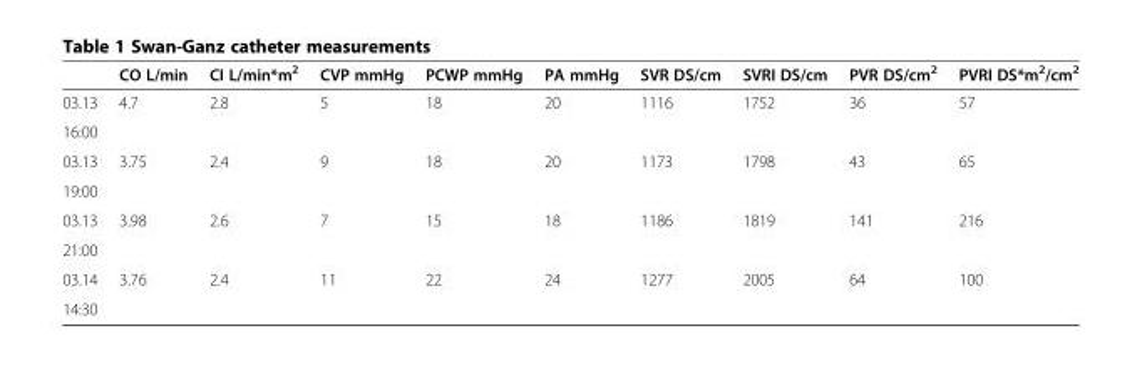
<table><thead><tr><td></td><td>CO L/min</td><td>CI L/min*m<sup>2</sup></td><td>CVP mmHg</td><td>PCWP mmHg</td><td>PA mmHg</td><td>SVR DS/cm</td><td>SVRI DS/cm</td><td>PVR DS/cm<sup>2</sup></td><td>PVRI DS*m<sup>2</sup>/cm<sup>2</sup></td></tr></thead><tbody><tr><td>03.13</td><td>4.7</td><td>2.8</td><td>5</td><td>18</td><td>20</td><td>1116</td><td>1752</td><td>36</td><td>57</td></tr><tr><td colspan="10">16:00</td></tr><tr><td>03.13</td><td>3.75</td><td>2.4</td><td>9</td><td>18</td><td>20</td><td>1173</td><td>1798</td><td>43</td><td>65</td></tr><tr><td colspan="10">19:00</td></tr><tr><td>03.13</td><td>3.98</td><td>2.6</td><td>7</td><td>15</td><td>18</td><td>1186</td><td>1819</td><td>141</td><td>216</td></tr><tr><td colspan="10">21:00</td></tr><tr><td>03.14</td><td>3.76</td><td>2.4</td><td>11</td><td>22</td><td>24</td><td>1277</td><td>2005</td><td>64</td><td>100</td></tr><tr><td colspan="10">14:30</td></tr></tbody></table>